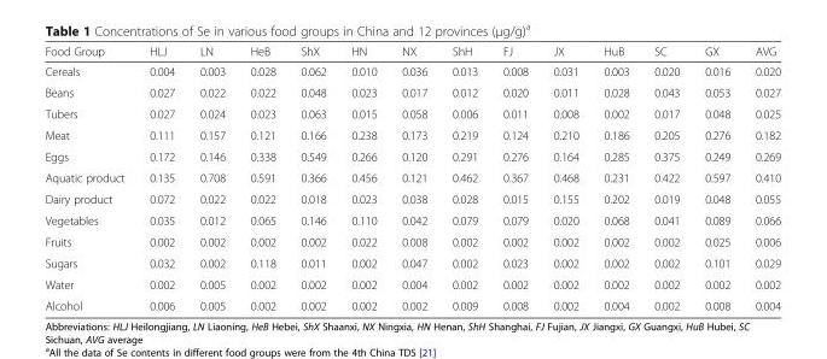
<table><thead><tr><td>Food Group</td><td>HLJ</td><td>LN</td><td>HeB</td><td>ShX</td><td>HN</td><td>NX</td><td>ShH</td><td>FJ</td><td>JX</td><td>HuB</td><td>SC</td><td>GX</td><td>AVG</td></tr></thead><tbody><tr><td>Cereals</td><td>0.004</td><td>0.003</td><td>0.028</td><td>0.062</td><td>0.010</td><td>0.036</td><td>0.013</td><td>0.008</td><td>0.031</td><td>0.003</td><td>0.020</td><td>0.016</td><td>0.020</td></tr><tr><td>Beans</td><td>0.027</td><td>0.022</td><td>0.022</td><td>0.048</td><td>0.023</td><td>0.017</td><td>0.012</td><td>0.020</td><td>0.011</td><td>0.028</td><td>0.043</td><td>0.053</td><td>0.027</td></tr><tr><td>Tubers</td><td>0.027</td><td>0.024</td><td>0.023</td><td>0.063</td><td>0.015</td><td>0.058</td><td>0.006</td><td>0.011</td><td>0.008</td><td>0.002</td><td>0.017</td><td>0.048</td><td>0.025</td></tr><tr><td>Meat</td><td>0.111</td><td>0.157</td><td>0.121</td><td>0.166</td><td>0.238</td><td>0.173</td><td>0.219</td><td>0.124</td><td>0.210</td><td>0.186</td><td>0.205</td><td>0.276</td><td>0.182</td></tr><tr><td>Eggs</td><td>0.172</td><td>0.146</td><td>0.338</td><td>0.549</td><td>0.266</td><td>0.120</td><td>0.291</td><td>0.276</td><td>0.164</td><td>0.285</td><td>0.375</td><td>0.249</td><td>0.269</td></tr><tr><td>Aquatic product</td><td>0.135</td><td>0.708</td><td>0.591</td><td>0.366</td><td>0.456</td><td>0.121</td><td>0.462</td><td>0.367</td><td>0.468</td><td>0.231</td><td>0.422</td><td>0.597</td><td>0.410</td></tr><tr><td>Dairy product</td><td>0.072</td><td>0.022</td><td>0.022</td><td>0.018</td><td>0.023</td><td>0.038</td><td>0.028</td><td>0.015</td><td>0.155</td><td>0.202</td><td>0.019</td><td>0.048</td><td>0.055</td></tr><tr><td>Vegetables</td><td>0.035</td><td>0.012</td><td>0.065</td><td>0.146</td><td>0.110</td><td>0.042</td><td>0.079</td><td>0.079</td><td>0.020</td><td>0.068</td><td>0.041</td><td>0.089</td><td>0.066</td></tr><tr><td>Fruits</td><td>0.002</td><td>0.002</td><td>0.002</td><td>0.002</td><td>0.022</td><td>0.008</td><td>0.002</td><td>0.002</td><td>0.002</td><td>0.002</td><td>0.002</td><td>0.025</td><td>0.006</td></tr><tr><td>Sugars</td><td>0.032</td><td>0.002</td><td>0.118</td><td>0.011</td><td>0.002</td><td>0.047</td><td>0.002</td><td>0.023</td><td>0.002</td><td>0.002</td><td>0.002</td><td>0.101</td><td>0.029</td></tr><tr><td>Water</td><td>0.002</td><td>0.005</td><td>0.002</td><td>0.002</td><td>0.002</td><td>0.004</td><td>0.002</td><td>0.002</td><td>0.002</td><td>0.002</td><td>0.002</td><td>0.002</td><td>0.002</td></tr><tr><td>Alcohol</td><td>0.006</td><td>0.005</td><td>0.002</td><td>0.002</td><td>0.002</td><td>0.002</td><td>0.009</td><td>0.008</td><td>0.002</td><td>0.004</td><td>0.002</td><td>0.008</td><td>0.004</td></tr></tbody></table>